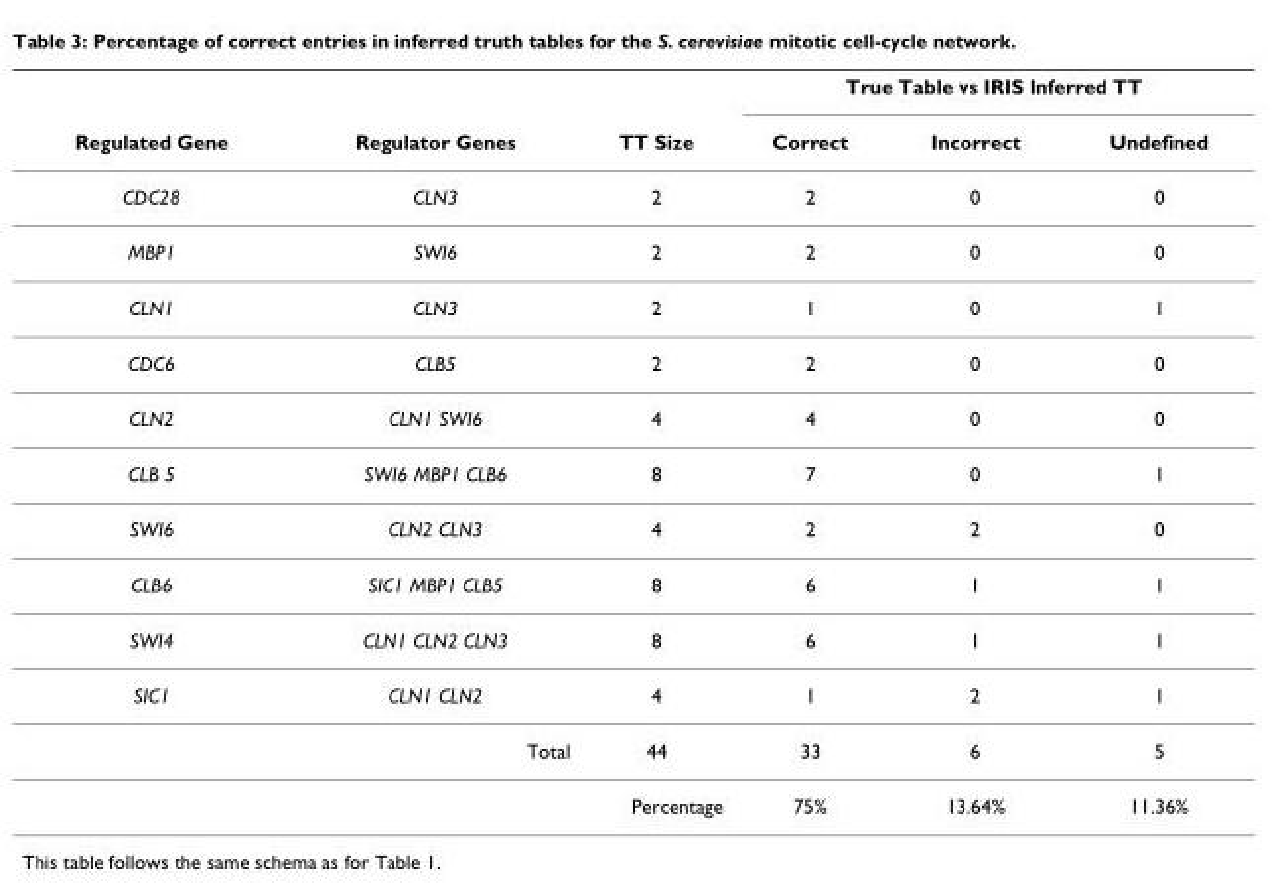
<table><thead><tr><td rowspan="2">Regulated Gene</td><td rowspan="2">Regulator Genes</td><td rowspan="2">TT Size</td><td colspan="3">True Table vs IRIS Inferred TT</td></tr><tr><td>Correct</td><td>Incorrect</td><td>Undefined</td></tr></thead><tbody><tr><td>CDC28</td><td>CLN3</td><td>2</td><td>2</td><td>0</td><td>0</td></tr><tr><td>MBP1</td><td>SWI6</td><td>2</td><td>2</td><td>0</td><td>0</td></tr><tr><td>CLN1</td><td>CLN3</td><td>2</td><td>1</td><td>0</td><td>1</td></tr><tr><td>CDC6</td><td>CLB5</td><td>2</td><td>2</td><td>0</td><td>0</td></tr><tr><td>CLN2</td><td>CLN1 SWI6</td><td>4</td><td>4</td><td>0</td><td>0</td></tr><tr><td>CLB 5</td><td>SWI6 MBP1 CLB6</td><td>8</td><td>7</td><td>0</td><td>1</td></tr><tr><td>SWI6</td><td>CLN2 CLN3</td><td>4</td><td>2</td><td>2</td><td>0</td></tr><tr><td>CLB6</td><td>SIC1 MBP1 CLB5</td><td>8</td><td>6</td><td>1</td><td>1</td></tr><tr><td>SWI4</td><td>CLN1 CLN2 CLN3</td><td>8</td><td>6</td><td>1</td><td>1</td></tr><tr><td>SIC1</td><td>CLN1 CLN2</td><td>4</td><td>1</td><td>2</td><td>1</td></tr><tr><td colspan="2">Total</td><td>44</td><td>33</td><td>6</td><td>5</td></tr><tr><td colspan="3">Percentage</td><td>75%</td><td>13.64%</td><td>11.36%</td></tr></tbody></table>